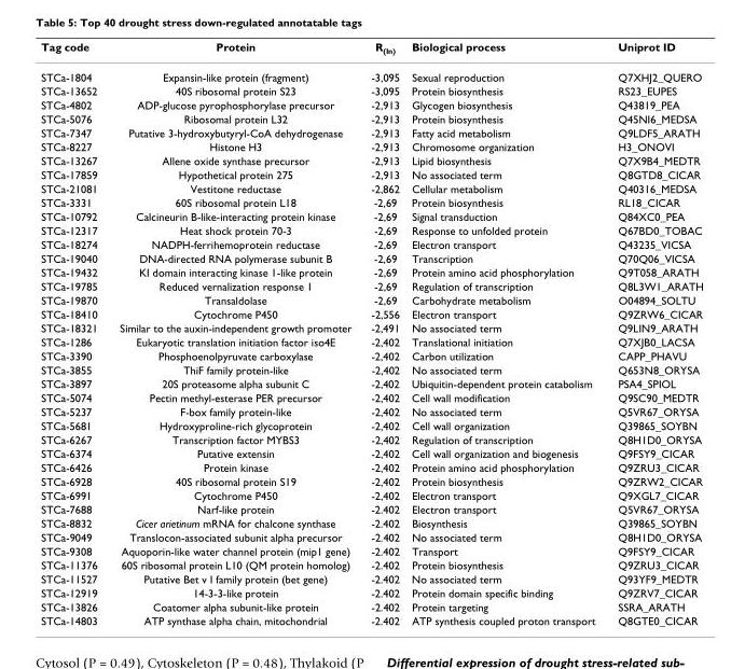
<table><thead><tr><td>Tag code</td><td>Protein</td><td>R<sub>(ln)</sub></td><td>Biological process</td><td>Uniprot ID</td></tr></thead><tbody><tr><td>STCa-1804</td><td>Expansin-like protein (fragment)</td><td>-3,095</td><td>Sexual reproduction</td><td>Q7XHJ2_QUERO</td></tr><tr><td>STCa-13652</td><td>40S ribosomal protein S23</td><td>-3,095</td><td>Protein biosynthesis</td><td>RS23_EUPES</td></tr><tr><td>STCa-4802</td><td>ADP-glucose pyrophosphorylase precursor</td><td>-2,913</td><td>Glycogen biosynthesis</td><td>Q43819_PEA</td></tr><tr><td>STCa-5076</td><td>Ribosomal protein L32</td><td>-2,913</td><td>Protein biosynthesis</td><td>Q45NI6_MEDSA</td></tr><tr><td>STCa-7347</td><td>Putative 3-hydroxybutyryl-CoA dehydrogenase</td><td>-2,913</td><td>Fatty acid metabolism</td><td>Q9LDF5_ARATH</td></tr><tr><td>STCa-8227</td><td>Histone H3</td><td>-2,913</td><td>Chromosome organization</td><td>H3_ONOVI</td></tr><tr><td>STCa-13267</td><td>Allene oxide synthase precursor</td><td>-2,913</td><td>Lipid biosynthesis</td><td>Q7X9B4_MEDTR</td></tr><tr><td>STCa-17859</td><td>Hypothetical protein 275</td><td>-2,913</td><td>No associated term</td><td>Q8GTD8_CICAR</td></tr><tr><td>STCa-21081</td><td>Vestitone reductase</td><td>-2,862</td><td>Cellular metabolism</td><td>Q40316_MEDSA</td></tr><tr><td>STCa-3331</td><td>60S ribosomal protein L18</td><td>-2,69</td><td>Protein biosynthesis</td><td>RL18_CICAR</td></tr><tr><td>STCa-10792</td><td>Calcineurin B-like-interacting protein kinase</td><td>-2,69</td><td>Signal transduction</td><td>Q84XC0_PEA</td></tr><tr><td>STCa-12317</td><td>Heat shock protein 70-3</td><td>-2,69</td><td>Response to unfolded protein</td><td>Q67BD0_TOBAC</td></tr><tr><td>STCa-18274</td><td>NADPH-ferrihemoprotein reductase</td><td>-2,69</td><td>Electron transport</td><td>Q43235_VICSA</td></tr><tr><td>STCa-19040</td><td>DNA-directed RNA polymerase subunit B</td><td>-2,69</td><td>Transcription</td><td>Q70Q06_VICSA</td></tr><tr><td>STCa-19432</td><td>KI domain interacting kinase 1-like protein</td><td>-2,69</td><td>Protein amino acid phosphorylation</td><td>Q9T058_ARATH</td></tr><tr><td>STCa-19785</td><td>Reduced vernalization response 1</td><td>-2,69</td><td>Regulation of transcription</td><td>Q8L3W1_ARATH</td></tr><tr><td>STCa-19870</td><td>Transaldolase</td><td>-2,69</td><td>Carbohydrate metabolism</td><td>O04894_SOLTU</td></tr><tr><td>STCa-18410</td><td>Cytochrome P450</td><td>-2,556</td><td>Electron transport</td><td>Q9ZRW6_CICAR</td></tr><tr><td>STCa-18321</td><td>Similar to the auxin-independent growth promoter</td><td>-2,491</td><td>No associated term</td><td>Q9LIN9_ARATH</td></tr><tr><td>STCa-1286</td><td>Eukaryotic translation initiation factor iso4E</td><td>-2,402</td><td>Translational initiation</td><td>Q7XJB0_LACSA</td></tr><tr><td>STCa-3390</td><td>Phosphoenolpyruvate carboxylase</td><td>-2,402</td><td>Carbon utilization</td><td>CAPP_PHAVU</td></tr><tr><td>STCa-3855</td><td>ThiF family protein-like</td><td>-2,402</td><td>No associated term</td><td>Q653N8_ORYSA</td></tr><tr><td>STCa-3897</td><td>20S proteasome alpha subunit C</td><td>-2,402</td><td>Ubiquitin-dependent protein catabolism</td><td>PSA4_SPIOL</td></tr><tr><td>STCa-5074</td><td>Pectin methyl-esterase PER precursor</td><td>-2,402</td><td>Cell wall modification</td><td>Q9SC90_MEDTR</td></tr><tr><td>STCa-5237</td><td>F-box family protein-like</td><td>-2,402</td><td>No associated term</td><td>Q5VR67_ORYSA</td></tr><tr><td>STCa-5681</td><td>Hydroxyproline-rich glycoprotein</td><td>-2,402</td><td>Cell wall organization</td><td>Q39865_SOYBN</td></tr><tr><td>STCa-6267</td><td>Transcription factor MYBS3</td><td>-2,402</td><td>Regulation of transcription</td><td>Q8H1D0_ORYSA</td></tr><tr><td>STCa-6374</td><td>Putative extensin</td><td>-2,402</td><td>Cell wall organization and biogenesis</td><td>Q9FSY9_CICAR</td></tr><tr><td>STCa-6426</td><td>Protein kinase</td><td>-2,402</td><td>Protein amino acid phosphorylation</td><td>Q9ZRU3_CICAR</td></tr><tr><td>STCa-6928</td><td>40S ribosomal protein S19</td><td>-2,402</td><td>Protein biosynthesis</td><td>Q9ZRW2_CICAR</td></tr><tr><td>STCa-6991</td><td>Cytochrome P450</td><td>-2,402</td><td>Electron transport</td><td>Q9XGL7_CICAR</td></tr><tr><td>STCa-7688</td><td>Narf-like protein</td><td>-2.402</td><td>Electron transport</td><td>Q5VR67_ORYSA</td></tr><tr><td>STCa-8832</td><td>Cicer arietinum mRNA for chalcone synthase</td><td>-2.402</td><td>Biosynthesis</td><td>Q39865_SOYBN</td></tr><tr><td>STCa-9049</td><td>Translocon-associated subunit alpha precursor</td><td>-2.402</td><td>No associated term</td><td>Q8H1D0_ORYSA</td></tr><tr><td>STCa-9308</td><td>Aquoporin-like water channel protein (mip1 gene)</td><td>-2.402</td><td>Transport</td><td>Q9FSY9_CICAR</td></tr><tr><td>STCa-11376</td><td>60S ribosomal protein L10 (QM protein homolog)</td><td>-2.402</td><td>Protein biosynthesis</td><td>Q9ZRU3_CICAR</td></tr><tr><td>STCa-11527</td><td>Putative Bet v I family protein (bet gene)</td><td>-2.402</td><td>No associated term</td><td>Q93YF9_MEDTR</td></tr><tr><td>STCa-12919</td><td>14-3-3-like protein</td><td>-2.402</td><td>Protein domain specific binding</td><td>Q9ZRV7_CICAR</td></tr><tr><td>STCa-13826</td><td>Coatomer alpha subunit-like protein</td><td>-2.402</td><td>Protein targeting</td><td>SSRA_ARATH</td></tr><tr><td>STCa-14803</td><td>ATP synthase alpha chain, mitochondrial</td><td>-2.402</td><td>ATP synthesis coupled proton transport</td><td>Q8GTE0_CICAR</td></tr></tbody></table>